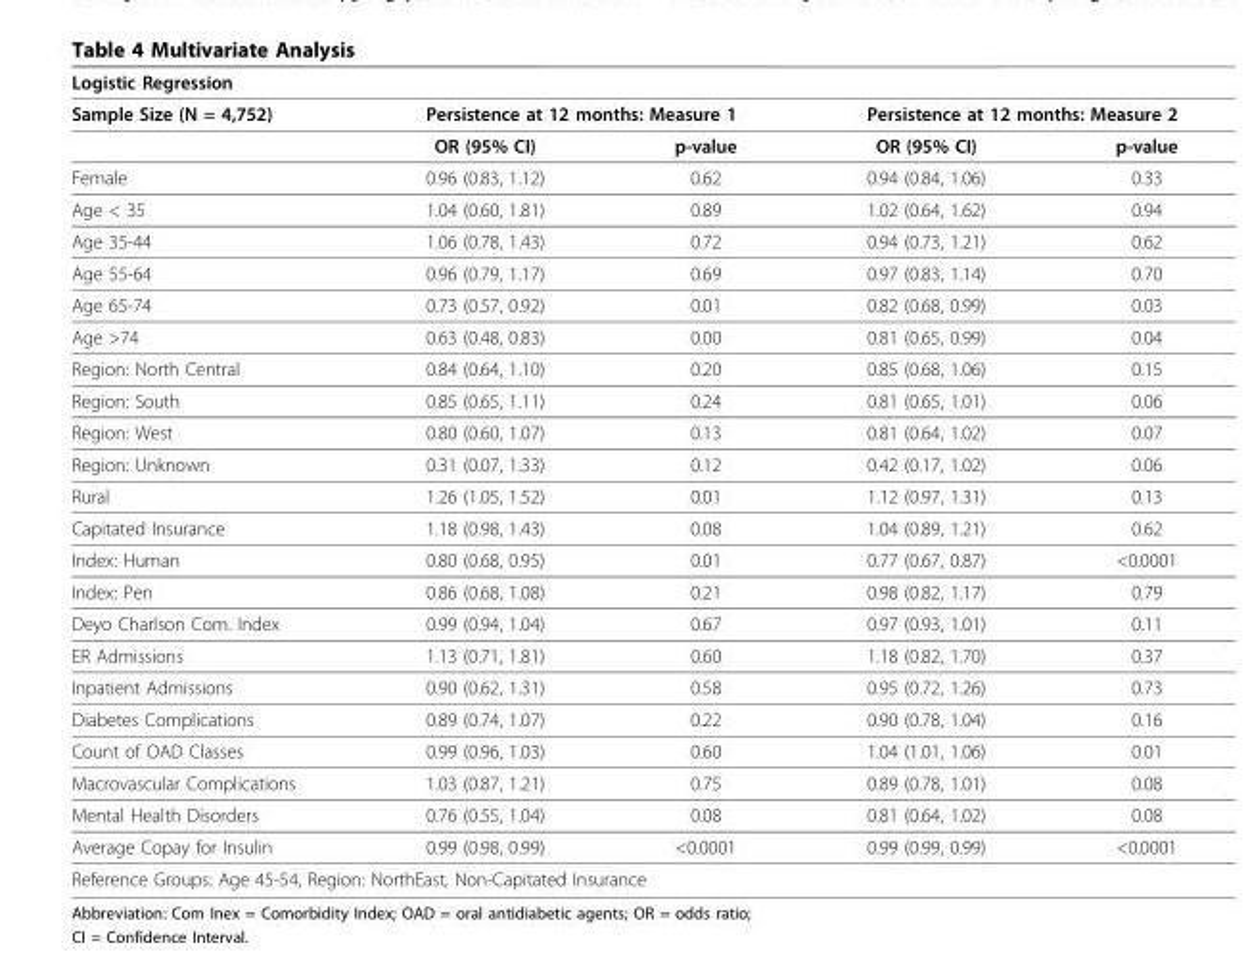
<table><thead><tr><td colspan="5">Logistic Regression</td></tr><tr><td rowspan="2">Sample Size (N = 4,752)</td><td colspan="2">Persistence at 12 months: Measure 1</td><td colspan="2">Persistence at 12 months: Measure 2</td></tr><tr><td>OR (95% CI)</td><td>p-value</td><td>OR (95% CI)</td><td>p-value</td></tr></thead><tbody><tr><td>Female</td><td>0.96 (0.83, 1.12)</td><td>0.62</td><td>0.94 (0.84, 1.06)</td><td>0.33</td></tr><tr><td>Age &lt; 35</td><td>1.04 (0.60, 1.81)</td><td>0.89</td><td>1.02 (0.64, 1.62)</td><td>0.94</td></tr><tr><td>Age 35-44</td><td>1.06 (0.78, 1.43)</td><td>0.72</td><td>0.94 (0.73, 1.21)</td><td>0.62</td></tr><tr><td>Age 55-64</td><td>0.96 (0.79, 1.17)</td><td>0.69</td><td>0.97 (0.83, 1.14)</td><td>0.70</td></tr><tr><td>Age 65-74</td><td>0.73 (0.57, 0.92)</td><td>0.01</td><td>0.82 (0.68, 0.99)</td><td>0.03</td></tr><tr><td>Age &gt;74</td><td>0.63 (0.48, 0.83)</td><td>0.00</td><td>0.81 (0.65, 0.99)</td><td>0.04</td></tr><tr><td>Region: North Central</td><td>0.84 (0.64, 1.10)</td><td>0.20</td><td>0.85 (0.68, 1.06)</td><td>0.15</td></tr><tr><td>Region: South</td><td>0.85 (0.65, 1.11)</td><td>0.24</td><td>0.81 (0.65, 1.01)</td><td>0.06</td></tr><tr><td>Region: West</td><td>0.80 (0.60, 1.07)</td><td>0.13</td><td>0.81 (0.64, 1.02)</td><td>0.07</td></tr><tr><td>Region: Unknown</td><td>0.31 (0.07, 1.33)</td><td>0.12</td><td>0.42 (0.17, 1.02)</td><td>0.06</td></tr><tr><td>Rural</td><td>1.26 (1.05, 1.52)</td><td>0.01</td><td>1.12 (0.97, 1.31)</td><td>0.13</td></tr><tr><td>Capitated Insurance</td><td>1.18 (0.98, 1.43)</td><td>0.08</td><td>1.04 (0.89, 1.21)</td><td>0.62</td></tr><tr><td>Index: Human</td><td>0.80 (0.68, 0.95)</td><td>0.01</td><td>0.77 (0.67, 0.87)</td><td>&lt;0.0001</td></tr><tr><td>Index: Pen</td><td>0.86 (0.68, 1.08)</td><td>0.21</td><td>0.98 (0.82, 1.17)</td><td>0.79</td></tr><tr><td>Deyo Charlson Com. Index</td><td>0.99 (0.94, 1.04)</td><td>0.67</td><td>0.97 (0.93, 1.01)</td><td>0.11</td></tr><tr><td>ER Admissions</td><td>1.13 (0.71, 1.81)</td><td>0.60</td><td>1.18 (0.82, 1.70)</td><td>0.37</td></tr><tr><td>Inpatient Admissions</td><td>0.90 (0.62, 1.31)</td><td>0.58</td><td>0.95 (0.72, 1.26)</td><td>0.73</td></tr><tr><td>Diabetes Complications</td><td>0.89 (0.74, 1.07)</td><td>0.22</td><td>0.90 (0.78, 1.04)</td><td>0.16</td></tr><tr><td>Count of OAD Classes</td><td>0.99 (0.96, 1.03)</td><td>0.60</td><td>1.04 (1.01, 1.06)</td><td>0.01</td></tr><tr><td>Macrovascular Complications</td><td>1.03 (0.87, 1.21)</td><td>0.75</td><td>0.89 (0.78, 1.01)</td><td>0.08</td></tr><tr><td>Mental Health Disorders</td><td>0.76 (0.55, 1.04)</td><td>0.08</td><td>0.81 (0.64, 1.02)</td><td>0.08</td></tr><tr><td>Average Copay for Insulin</td><td>0.99 (0.98, 0.99)</td><td>&lt;0.0001</td><td>0.99 (0.99, 0.99)</td><td>&lt;0.0001</td></tr><tr><td colspan="5">Reference Groups: Age 45-54, Region: NorthEast, Non-Capitated Insurance</td></tr></tbody></table>